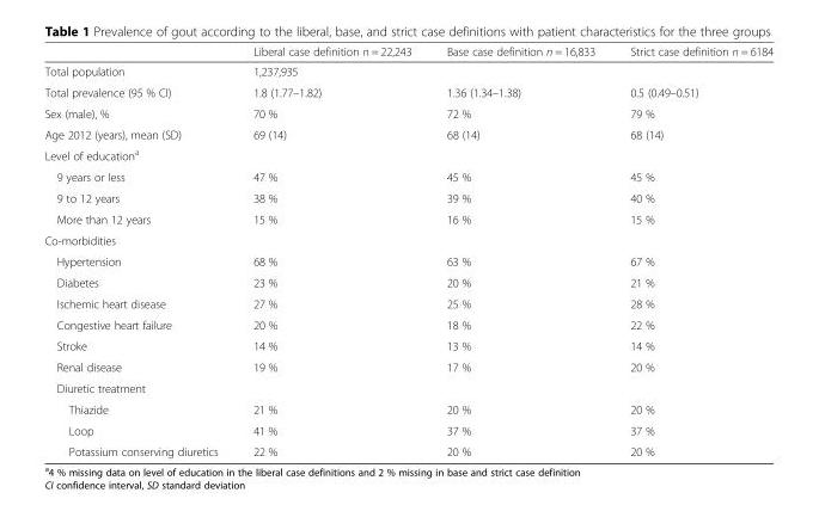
<table><thead><tr><td></td><td>Liberal case definition n = 22,243</td><td>Base case definition n = 16,833</td><td>Strict case definition n = 6184</td></tr></thead><tbody><tr><td>Total population</td><td colspan="3">1,237,935</td></tr><tr><td>Total prevalence (95 % CI)</td><td>1.8 (1.77–1.82)</td><td>1.36 (1.34–1.38)</td><td>0.5 (0.49–0.51)</td></tr><tr><td>Sex (male), %</td><td>70 %</td><td>72 %</td><td>79 %</td></tr><tr><td>Age 2012 (years), mean (SD)</td><td>69 (14)</td><td>68 (14)</td><td>68 (14)</td></tr><tr><td colspan="4">Level of education<sup>a</sup></td></tr><tr><td>9 years or less</td><td>47 %</td><td>45 %</td><td>45 %</td></tr><tr><td>9 to 12 years</td><td>38 %</td><td>39 %</td><td>40 %</td></tr><tr><td>More than 12 years</td><td>15 %</td><td>16 %</td><td>15 %</td></tr><tr><td colspan="4">Co-morbidities</td></tr><tr><td>Hypertension</td><td>68 %</td><td>63 %</td><td>67 %</td></tr><tr><td>Diabetes</td><td>23 %</td><td>20 %</td><td>21 %</td></tr><tr><td>Ischemic heart disease</td><td>27 %</td><td>25 %</td><td>28 %</td></tr><tr><td>Congestive heart failure</td><td>20 %</td><td>18 %</td><td>22 %</td></tr><tr><td>Stroke</td><td>14 %</td><td>13 %</td><td>14 %</td></tr><tr><td>Renal disease</td><td>19 %</td><td>17 %</td><td>20 %</td></tr><tr><td colspan="4">Diuretic treatment</td></tr><tr><td>Thiazide</td><td>21 %</td><td>20 %</td><td>20 %</td></tr><tr><td>Loop</td><td>41 %</td><td>37 %</td><td>37 %</td></tr><tr><td>Potassium conserving diuretics</td><td>22 %</td><td>20 %</td><td>20 %</td></tr></tbody></table>